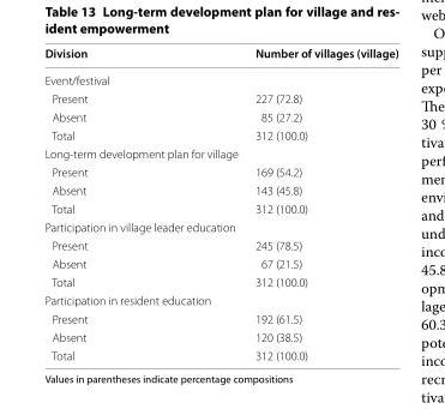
<table><thead><tr><td>Division</td><td>Number of villages (village)</td></tr></thead><tbody><tr><td colspan="2">Event/festival</td></tr><tr><td>Present</td><td>227 (72.8)</td></tr><tr><td>Absent</td><td>85 (27.2)</td></tr><tr><td>Total</td><td>312 (100.0)</td></tr><tr><td colspan="2">Long-term development plan for village</td></tr><tr><td>Present</td><td>169 (54.2)</td></tr><tr><td>Absent</td><td>143 (45.8)</td></tr><tr><td>Total</td><td>312 (100.0)</td></tr><tr><td colspan="2">Participation in village leader education</td></tr><tr><td>Present</td><td>245 (78.5)</td></tr><tr><td>Absent</td><td>67 (21.5)</td></tr><tr><td>Total</td><td>312 (100.0)</td></tr><tr><td colspan="2">Participation in resident education</td></tr><tr><td>Present</td><td>192 (61.5)</td></tr><tr><td>Absent</td><td>120 (38.5)</td></tr><tr><td>Total</td><td>312 (100.0)</td></tr></tbody></table>